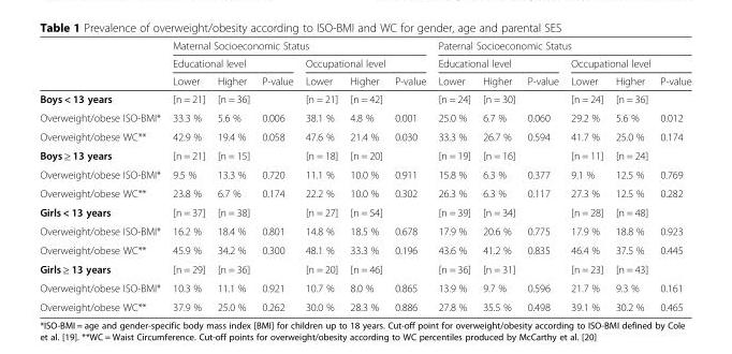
<table><thead><tr><td rowspan="3"></td><td colspan="6">Maternal Socioeconomic Status</td><td colspan="6">Paternal Socioeconomic Status</td></tr><tr><td colspan="3">Educational level</td><td colspan="3">Occupational level</td><td colspan="3">Educational level</td><td colspan="3">Occupational level</td></tr><tr><td>Lower</td><td>Higher</td><td>P-value</td><td>Lower</td><td>Higher</td><td>P-value</td><td>Lower</td><td>Higher</td><td>P-value</td><td>Lower</td><td>Higher</td><td>P-value</td></tr></thead><tbody><tr><td>Boys &lt; 13 years</td><td>[n = 21]</td><td>[n = 36]</td><td></td><td>[n = 21]</td><td>[n = 42]</td><td></td><td>[n = 24]</td><td>[n = 30]</td><td></td><td>[n = 24]</td><td>[n = 36]</td><td></td></tr><tr><td>Overweight/obese ISO-BMI*</td><td>33.3 %</td><td>5.6 %</td><td>0.006</td><td>38.1 %</td><td>4.8 %</td><td>0.001</td><td>25.0 %</td><td>6.7 %</td><td>0.060</td><td>29.2 %</td><td>5.6 %</td><td>0.012</td></tr><tr><td>Overweight/obese WC**</td><td>42.9 %</td><td>19.4 %</td><td>0.058</td><td>47.6 %</td><td>21.4 %</td><td>0.030</td><td>33.3 %</td><td>26.7 %</td><td>0.594</td><td>41.7 %</td><td>25.0 %</td><td>0.174</td></tr><tr><td>Boys ≥ 13 years</td><td>[n = 21]</td><td>[n = 15]</td><td></td><td>[n = 18]</td><td>[n = 20]</td><td></td><td>[n = 19]</td><td>[n = 16]</td><td></td><td>[n = 11]</td><td>[n = 24]</td><td></td></tr><tr><td>Overweight/obese ISO-BMI*</td><td>9.5 %</td><td>13.3 %</td><td>0.720</td><td>11.1 %</td><td>10.0 %</td><td>0.911</td><td>15.8 %</td><td>6.3 %</td><td>0.377</td><td>9.1 %</td><td>12.5 %</td><td>0.769</td></tr><tr><td>Overweight/obese WC**</td><td>23.8 %</td><td>6.7 %</td><td>0.174</td><td>22.2 %</td><td>10.0 %</td><td>0.302</td><td>26.3 %</td><td>6.3 %</td><td>0.117</td><td>27.3 %</td><td>12.5 %</td><td>0.282</td></tr><tr><td>Girls &lt; 13 years</td><td>[n = 37]</td><td>[n = 38]</td><td></td><td>[n = 27]</td><td>[n = 54]</td><td></td><td>[n = 39]</td><td>[n = 34]</td><td></td><td>[n = 28]</td><td>[n = 48]</td><td></td></tr><tr><td>Overweight/obese ISO-BMI*</td><td>16.2 %</td><td>18.4 %</td><td>0.801</td><td>14.8 %</td><td>18.5 %</td><td>0.678</td><td>17.9 %</td><td>20.6 %</td><td>0.775</td><td>17.9 %</td><td>18.8 %</td><td>0.923</td></tr><tr><td>Overweight/obese WC**</td><td>45.9 %</td><td>34.2 %</td><td>0.300</td><td>48.1 %</td><td>33.3 %</td><td>0.196</td><td>43.6 %</td><td>41.2 %</td><td>0.835</td><td>46.4 %</td><td>37.5 %</td><td>0.445</td></tr><tr><td>Girls ≥ 13 years</td><td>[n = 29]</td><td>[n = 36]</td><td></td><td>[n = 20]</td><td>[n = 46]</td><td></td><td>[n = 36]</td><td>[n = 31]</td><td></td><td>[n = 23]</td><td>[n = 43]</td><td></td></tr><tr><td>Overweight/obese ISO-BMI*</td><td>10.3 %</td><td>11.1 %</td><td>0.921</td><td>10.7 %</td><td>8.0 %</td><td>0.865</td><td>13.9 %</td><td>9.7 %</td><td>0.596</td><td>21.7 %</td><td>9.3 %</td><td>0.161</td></tr><tr><td>Overweight/obese WC**</td><td>37.9 %</td><td>25.0 %</td><td>0.262</td><td>30.0 %</td><td>28.3 %</td><td>0.886</td><td>27.8 %</td><td>35.5 %</td><td>0.498</td><td>39.1 %</td><td>30.2 %</td><td>0.465</td></tr></tbody></table>